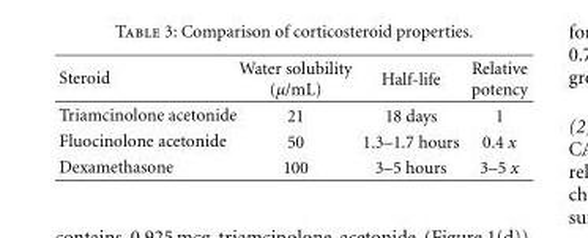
<table><thead><tr><td>Steroid</td><td>Water solubility (μ/mL)</td><td>Half-life</td><td>Relative potency</td></tr></thead><tbody><tr><td>Triamcinolone acetonide</td><td>21</td><td>18 days</td><td>1</td></tr><tr><td>Fluocinolone acetonide</td><td>50</td><td>1.3–1.7 hours</td><td>0.4 x</td></tr><tr><td>Dexamethasone</td><td>100</td><td>3–5 hours</td><td>3–5 x</td></tr></tbody></table>